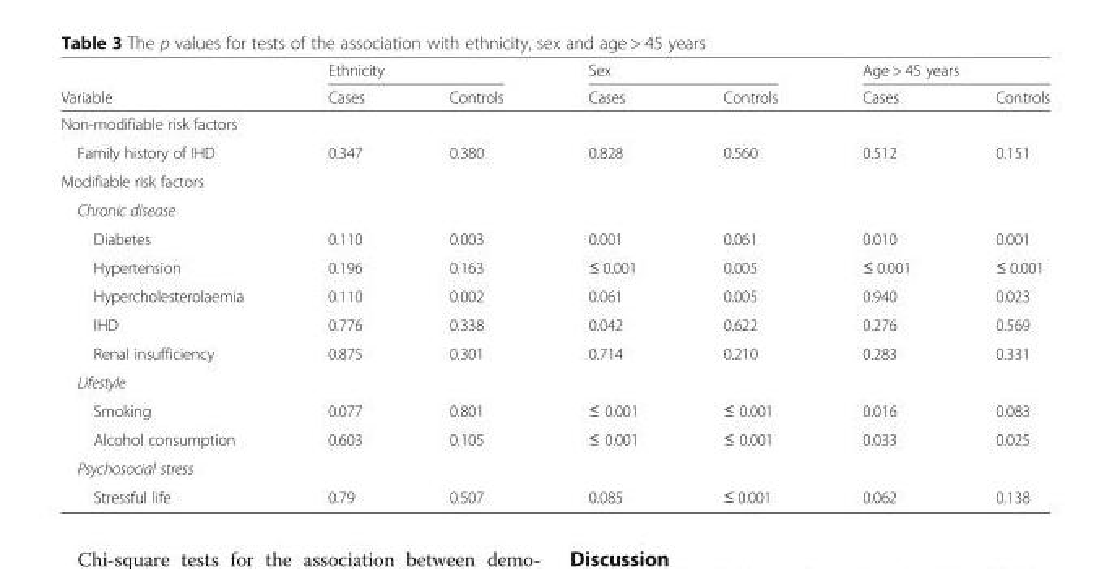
<table><thead><tr><td rowspan="2">Variable</td><td colspan="2">Ethnicity</td><td colspan="2">Sex</td><td colspan="2">Age &gt; 45 years</td></tr><tr><td>Cases</td><td>Controls</td><td>Cases</td><td>Controls</td><td>Cases</td><td>Controls</td></tr></thead><tbody><tr><td colspan="7">Non-modifiable risk factors</td></tr><tr><td>Family history of IHD</td><td>0.347</td><td>0.380</td><td>0.828</td><td>0.560</td><td>0.512</td><td>0.151</td></tr><tr><td colspan="7">Modifiable risk factors</td></tr><tr><td colspan="7">Chronic disease</td></tr><tr><td>Diabetes</td><td>0.110</td><td>0.003</td><td>0.001</td><td>0.061</td><td>0.010</td><td>0.001</td></tr><tr><td>Hypertension</td><td>0.196</td><td>0.163</td><td>≤ 0.001</td><td>0.005</td><td>≤ 0.001</td><td>≤ 0.001</td></tr><tr><td>Hypercholesterolaemia</td><td>0.110</td><td>0.002</td><td>0.061</td><td>0.005</td><td>0.940</td><td>0.023</td></tr><tr><td>IHD</td><td>0.776</td><td>0.338</td><td>0.042</td><td>0.622</td><td>0.276</td><td>0.569</td></tr><tr><td>Renal insufficiency</td><td>0.875</td><td>0.301</td><td>0.714</td><td>0.210</td><td>0.283</td><td>0.331</td></tr><tr><td colspan="7">Lifestyle</td></tr><tr><td>Smoking</td><td>0.077</td><td>0.801</td><td>≤ 0.001</td><td>≤ 0.001</td><td>0.016</td><td>0.083</td></tr><tr><td>Alcohol consumption</td><td>0.603</td><td>0.105</td><td>≤ 0.001</td><td>≤ 0.001</td><td>0.033</td><td>0.025</td></tr><tr><td colspan="7">Psychosocial stress</td></tr><tr><td>Stressful life</td><td>0.79</td><td>0.507</td><td>0.085</td><td>≤ 0.001</td><td>0.062</td><td>0.138</td></tr></tbody></table>